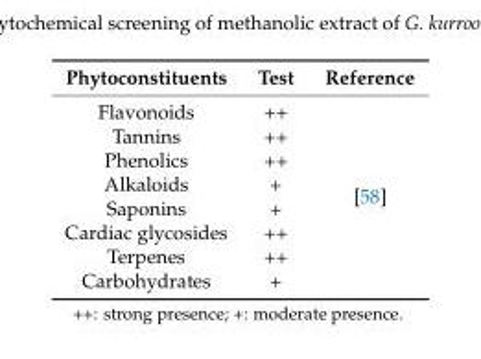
<table><thead><tr><td>Phytoconstituents</td><td>Test</td><td>Reference</td></tr></thead><tbody><tr><td>Flavonoids</td><td>++</td><td rowspan="8">[58]</td></tr><tr><td>Tannins</td><td>++</td></tr><tr><td>Phenolics</td><td>++</td></tr><tr><td>Alkaloids</td><td>+</td></tr><tr><td>Saponins</td><td>+</td></tr><tr><td>Cardiac glycosides</td><td>++</td></tr><tr><td>Terpenes</td><td>++</td></tr><tr><td>Carbohydrates</td><td>+</td></tr></tbody></table>